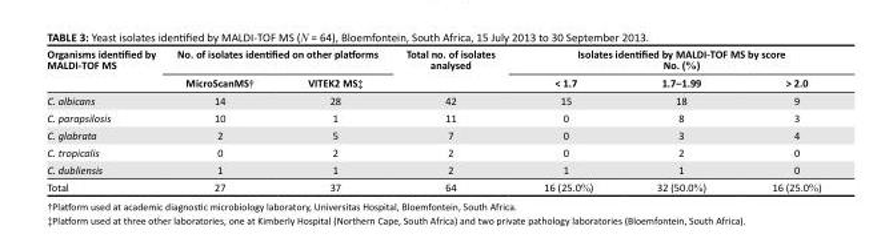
<table><thead><tr><td rowspan="2">Organisms identified by MALDI-TOF MS</td><td colspan="2">No. of isolates identified on other platforms</td><td rowspan="2">Total no. of isolates analysed</td><td colspan="3">Isolates identified by MALDI-TOF MS by score No. (%)</td></tr><tr><td>MicroScanMS†</td><td>VITEK2 MS‡</td><td>&lt; 1.7</td><td>1.7–1.99</td><td>&gt; 2.0</td></tr></thead><tbody><tr><td>C. albicans</td><td>14</td><td>28</td><td>42</td><td>15</td><td>18</td><td>9</td></tr><tr><td>C. parapsilosis</td><td>10</td><td>1</td><td>11</td><td>0</td><td>8</td><td>3</td></tr><tr><td>C. glabrata</td><td>2</td><td>5</td><td>7</td><td>0</td><td>3</td><td>4</td></tr><tr><td>C. tropicalis</td><td>0</td><td>2</td><td>2</td><td>0</td><td>2</td><td>0</td></tr><tr><td>C. dubliensis</td><td>1</td><td>1</td><td>2</td><td>1</td><td>1</td><td>0</td></tr><tr><td>Total</td><td>27</td><td>37</td><td>64</td><td>16 (25.0%)</td><td>32 (50.0%)</td><td>16 (25.0%)</td></tr></tbody></table>